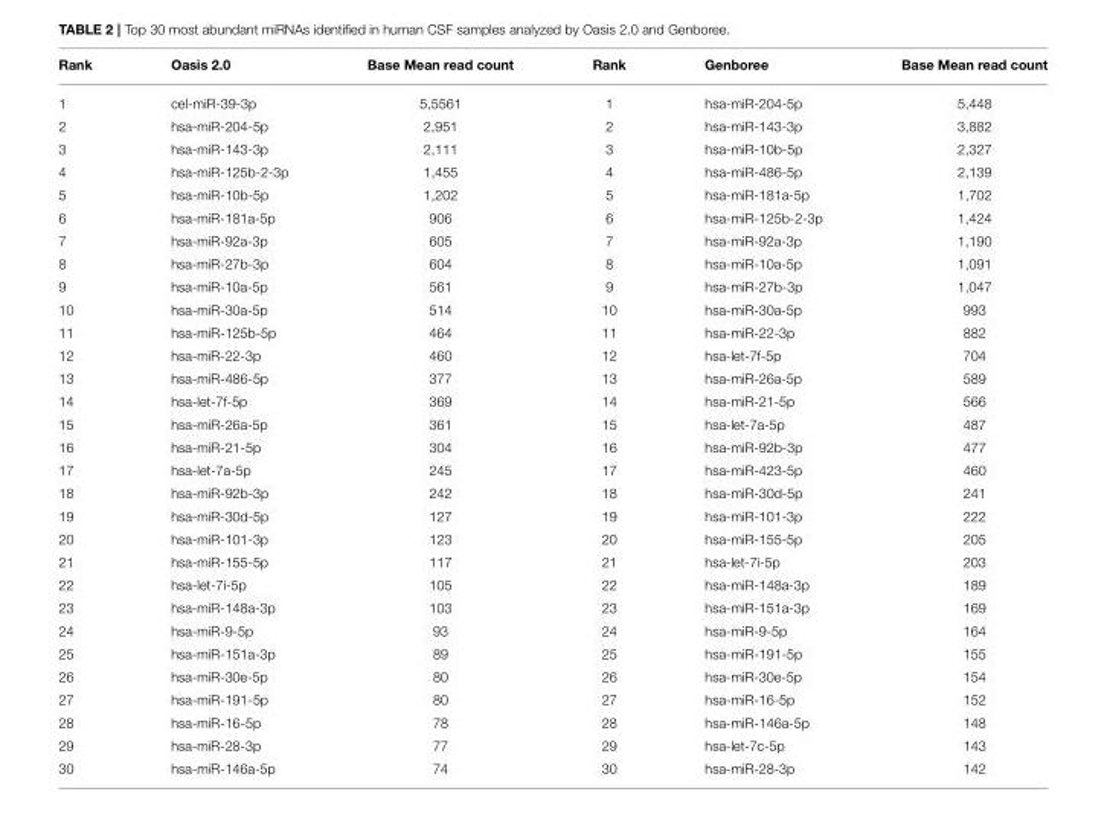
<table><thead><tr><td>Rank</td><td>Oasis 2.0</td><td>Base Mean read count</td><td>Rank</td><td>Genboree</td><td>Base Mean read count</td></tr></thead><tbody><tr><td>1</td><td>cel-miR-39-3p</td><td>5,5561</td><td>1</td><td>hsa-miR-204-5p</td><td>5,448</td></tr><tr><td>2</td><td>hsa-miR-204-5p</td><td>2,951</td><td>2</td><td>hsa-miR-143-3p</td><td>3,882</td></tr><tr><td>3</td><td>hsa-miR-143-3p</td><td>2,111</td><td>3</td><td>hsa-miR-10b-5p</td><td>2,327</td></tr><tr><td>4</td><td>hsa-miR-125b-2-3p</td><td>1,455</td><td>4</td><td>hsa-miR-486-5p</td><td>2,139</td></tr><tr><td>5</td><td>hsa-miR-10b-5p</td><td>1,202</td><td>5</td><td>hsa-miR-181a-5p</td><td>1,702</td></tr><tr><td>6</td><td>hsa-miR-181a-5p</td><td>906</td><td>6</td><td>hsa-miR-125b-2-3p</td><td>1,424</td></tr><tr><td>7</td><td>hsa-miR-92a-3p</td><td>605</td><td>7</td><td>hsa-miR-92a-3p</td><td>1,190</td></tr><tr><td>8</td><td>hsa-miR-27b-3p</td><td>604</td><td>8</td><td>hsa-miR-10a-5p</td><td>1,091</td></tr><tr><td>9</td><td>hsa-miR-10a-5p</td><td>561</td><td>9</td><td>hsa-miR-27b-3p</td><td>1,047</td></tr><tr><td>10</td><td>hsa-miR-30a-5p</td><td>514</td><td>10</td><td>hsa-miR-30a-5p</td><td>993</td></tr><tr><td>11</td><td>hsa-miR-125b-5p</td><td>464</td><td>11</td><td>hsa-miR-22-3p</td><td>882</td></tr><tr><td>12</td><td>hsa-miR-22-3p</td><td>460</td><td>12</td><td>hsa-let-7f-5p</td><td>704</td></tr><tr><td>13</td><td>hsa-miR-486-5p</td><td>377</td><td>13</td><td>hsa-miR-26a-5p</td><td>589</td></tr><tr><td>14</td><td>hsa-let-7f-5p</td><td>369</td><td>14</td><td>hsa-miR-21-5p</td><td>566</td></tr><tr><td>15</td><td>hsa-miR-26a-5p</td><td>361</td><td>15</td><td>hsa-let-7a-5p</td><td>487</td></tr><tr><td>16</td><td>hsa-miR-21-5p</td><td>304</td><td>16</td><td>hsa-miR-92b-3p</td><td>477</td></tr><tr><td>17</td><td>hsa-let-7a-5p</td><td>245</td><td>17</td><td>hsa-miR-423-5p</td><td>460</td></tr><tr><td>18</td><td>hsa-miR-92b-3p</td><td>242</td><td>18</td><td>hsa-miR-30d-5p</td><td>241</td></tr><tr><td>19</td><td>hsa-miR-30d-5p</td><td>127</td><td>19</td><td>hsa-miR-101-3p</td><td>222</td></tr><tr><td>20</td><td>hsa-miR-101-3p</td><td>123</td><td>20</td><td>hsa-miR-155-5p</td><td>205</td></tr><tr><td>21</td><td>hsa-miR-155-5p</td><td>117</td><td>21</td><td>hsa-let-7i-5p</td><td>203</td></tr><tr><td>22</td><td>hsa-let-7i-5p</td><td>105</td><td>22</td><td>hsa-miR-148a-3p</td><td>189</td></tr><tr><td>23</td><td>hsa-miR-148a-3p</td><td>103</td><td>23</td><td>hsa-miR-151a-3p</td><td>169</td></tr><tr><td>24</td><td>hsa-miR-9-5p</td><td>93</td><td>24</td><td>hsa-miR-9-5p</td><td>164</td></tr><tr><td>25</td><td>hsa-miR-151a-3p</td><td>89</td><td>25</td><td>hsa-miR-191-5p</td><td>155</td></tr><tr><td>26</td><td>hsa-miR-30e-5p</td><td>80</td><td>26</td><td>hsa-miR-30e-5p</td><td>154</td></tr><tr><td>27</td><td>hsa-miR-191-5p</td><td>80</td><td>27</td><td>hsa-miR-16-5p</td><td>152</td></tr><tr><td>28</td><td>hsa-miR-16-5p</td><td>78</td><td>28</td><td>hsa-miR-146a-5p</td><td>148</td></tr><tr><td>29</td><td>hsa-miR-28-3p</td><td>77</td><td>29</td><td>hsa-let-7c-5p</td><td>143</td></tr><tr><td>30</td><td>hsa-miR-146a-5p</td><td>74</td><td>30</td><td>hsa-miR-28-3p</td><td>142</td></tr></tbody></table>